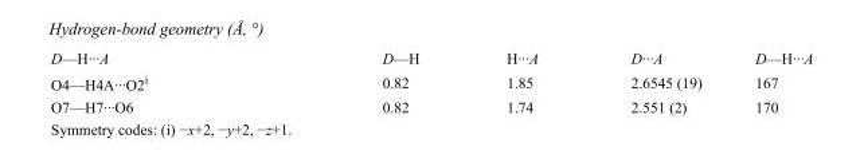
<table><tbody><tr><td>D—H···A</td><td>D—H</td><td>H···A</td><td>D···A</td><td>D—H···A</td></tr><tr><td>O4—H4A···O2<sup>i</sup></td><td>0.82</td><td>1.85</td><td>2.6545 (19)</td><td>167</td></tr><tr><td>O7—H7···O6</td><td>0.82</td><td>1.74</td><td>2.551 (2)</td><td>170</td></tr></tbody></table>